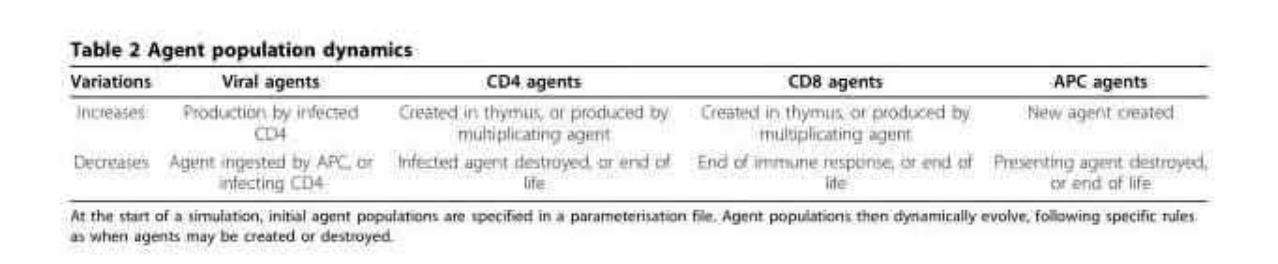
<table><thead><tr><td>Variations</td><td>Viral agents</td><td>CD4 agents</td><td>CD8 agents</td><td>APC agents</td></tr></thead><tbody><tr><td>Increases</td><td>Production by infected CD4</td><td>Created in thymus, or produced by multiplicating agent</td><td>Created in thymus, or produced by multiplicating agent</td><td>New agent created</td></tr><tr><td>Decreases</td><td>Agent ingested by APC, or infecting CD4</td><td>Infected agent destroyed, or end of life</td><td>End of immune response, or end of life</td><td>Presenting agent destroyed, or end of life</td></tr></tbody></table>